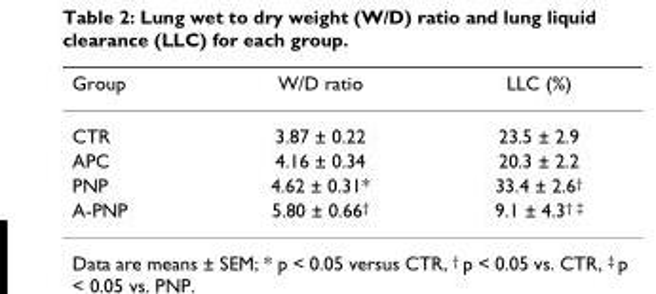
<table><thead><tr><td>Group</td><td>W/D ratio</td><td>LLC (%)</td></tr></thead><tbody><tr><td>CTR</td><td>3.87 ± 0.22</td><td>23.5 ± 2.9</td></tr><tr><td>APC</td><td>4.16 ± 0.34</td><td>20.3 ± 2.2</td></tr><tr><td>PNP</td><td>4.62 ± 0.31*</td><td>33.4 ± 2.6<sup>†</sup></td></tr><tr><td>A-PNP</td><td>5.80 ± 0.66<sup>†</sup></td><td>9.1 ± 4.3<sup>† ‡</sup></td></tr></tbody></table>